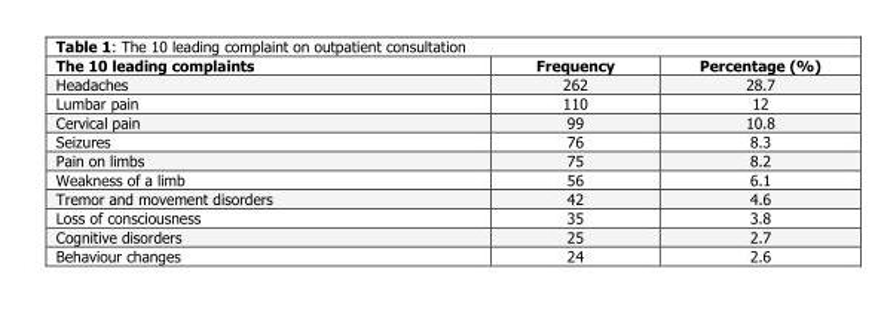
<table><thead><tr><td>The 10 leading complaints</td><td>Frequency</td><td>Percentage (%)</td></tr></thead><tbody><tr><td>Headaches</td><td>262</td><td>28.7</td></tr><tr><td>Lumbar pain</td><td>110</td><td>12</td></tr><tr><td>Cervical pain</td><td>99</td><td>10.8</td></tr><tr><td>Seizures</td><td>76</td><td>8.3</td></tr><tr><td>Pain on limbs</td><td>75</td><td>8.2</td></tr><tr><td>Weakness of a limb</td><td>56</td><td>6.1</td></tr><tr><td>Tremor and movement disorders</td><td>42</td><td>4.6</td></tr><tr><td>Loss of consciousness</td><td>35</td><td>3.8</td></tr><tr><td>Cognitive disorders</td><td>25</td><td>2.7</td></tr><tr><td>Behaviour changes</td><td>24</td><td>2.6</td></tr></tbody></table>